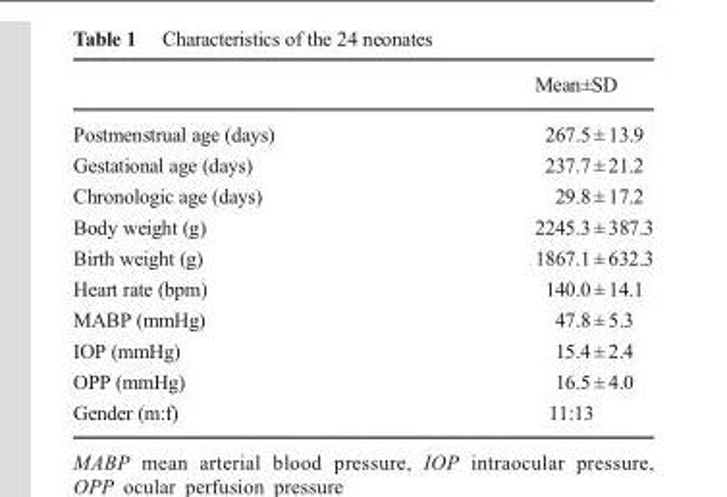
<table><thead><tr><td></td><td>Mean±SD</td></tr></thead><tbody><tr><td>Postmenstrual age (days)</td><td>267.5 ± 13.9</td></tr><tr><td>Gestational age (days)</td><td>237.7 ± 21.2</td></tr><tr><td>Chronologic age (days)</td><td>29.8 ± 17.2</td></tr><tr><td>Body weight (g)</td><td>2245.3 ± 387.3</td></tr><tr><td>Birth weight (g)</td><td>1867.1 ± 632.3</td></tr><tr><td>Heart rate (bpm)</td><td>140.0 ± 14.1</td></tr><tr><td>MABP (mmHg)</td><td>47.8 ± 5.3</td></tr><tr><td>IOP (mmHg)</td><td>15.4 ± 2.4</td></tr><tr><td>OPP (mmHg)</td><td>16.5 ± 4.0</td></tr><tr><td>Gender (m:f)</td><td>11:13</td></tr></tbody></table>